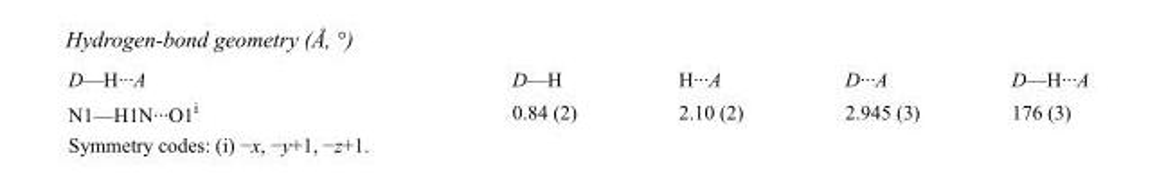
<table><tbody><tr><td>D—H···A</td><td>D—H</td><td>H···A</td><td>D···A</td><td>D—H···A</td></tr><tr><td>N1—H1N···O1<sup>i</sup></td><td>0.84 (2)</td><td>2.10 (2)</td><td>2.945 (3)</td><td>176 (3)</td></tr></tbody></table>